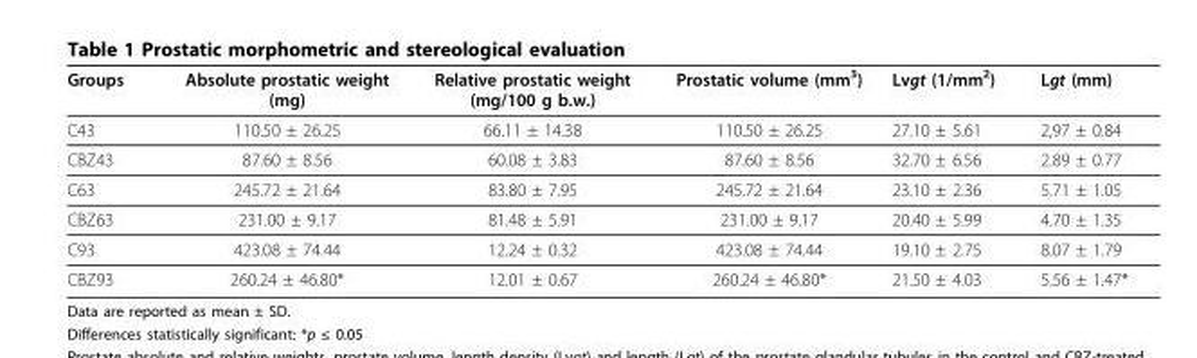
<table><thead><tr><td>Groups</td><td>Absolute prostatic weight (mg)</td><td>Relative prostatic weight (mg/100 g b.w.)</td><td>Prostatic volume (mm<sup>3</sup>)</td><td>Lvgt (1/mm<sup>2</sup>)</td><td>Lgt (mm)</td></tr></thead><tbody><tr><td>C43</td><td>110.50 ± 26.25</td><td>66.11 ± 14.38</td><td>110.50 ± 26.25</td><td>27.10 ± 5.61</td><td>2,97 ± 0.84</td></tr><tr><td>CBZ43</td><td>87.60 ± 8.56</td><td>60.08 ± 3.83</td><td>87.60 ± 8.56</td><td>32.70 ± 6.56</td><td>2.89 ± 0.77</td></tr><tr><td>C63</td><td>245.72 ± 21.64</td><td>83.80 ± 7.95</td><td>245.72 ± 21.64</td><td>23.10 ± 2.36</td><td>5.71 ± 1.05</td></tr><tr><td>CBZ63</td><td>231.00 ± 9.17</td><td>81.48 ± 5.91</td><td>231.00 ± 9.17</td><td>20.40 ± 5.99</td><td>4.70 ± 1.35</td></tr><tr><td>C93</td><td>423.08 ± 74.44</td><td>12.24 ± 0.32</td><td>423.08 ± 74.44</td><td>19.10 ± 2.75</td><td>8.07 ± 1.79</td></tr><tr><td>CBZ93</td><td>260.24 ± 46.80*</td><td>12.01 ± 0.67</td><td>260.24 ± 46.80*</td><td>21.50 ± 4.03</td><td>5.56 ± 1.47*</td></tr></tbody></table>